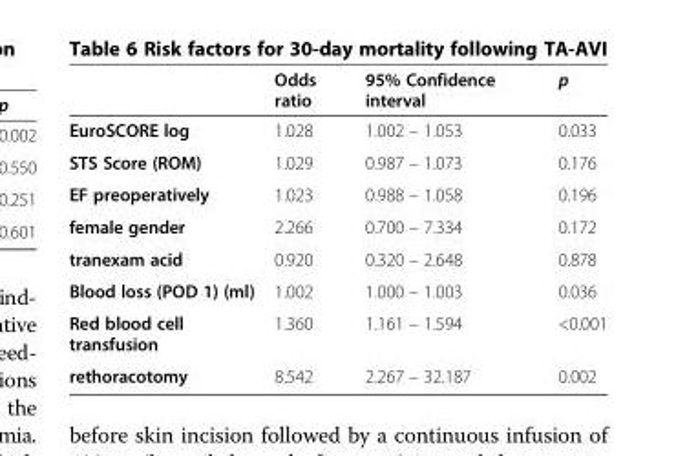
<table><thead><tr><td></td><td>Odds ratio</td><td>95% Confidence interval</td><td>p</td></tr></thead><tbody><tr><td>EuroSCORE log</td><td>1.028</td><td>1.002 – 1.053</td><td>0.033</td></tr><tr><td>STS Score (ROM)</td><td>1.029</td><td>0.987 – 1.073</td><td>0.176</td></tr><tr><td>EF preoperatively</td><td>1.023</td><td>0.988 – 1.058</td><td>0.196</td></tr><tr><td>female gender</td><td>2.266</td><td>0.700 – 7.334</td><td>0.172</td></tr><tr><td>tranexam acid</td><td>0.920</td><td>0.320 – 2.648</td><td>0.878</td></tr><tr><td>Blood loss (POD 1) (ml)</td><td>1.002</td><td>1.000 – 1.003</td><td>0.036</td></tr><tr><td>Red blood cell transfusion</td><td>1.360</td><td>1.161 – 1.594</td><td>&lt;0.001</td></tr><tr><td>rethoracotomy</td><td>8.542</td><td>2.267 – 32.187</td><td>0.002</td></tr></tbody></table>